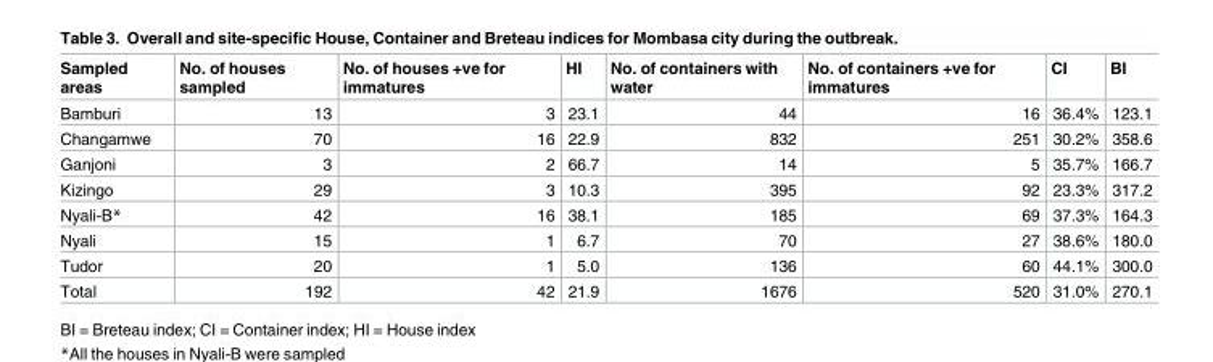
<table><thead><tr><td>Sampled areas</td><td>No. of houses sampled</td><td>No. of houses +ve for immatures</td><td>HI</td><td>No. of containers with water</td><td>No. of containers +ve for immatures</td><td>CI</td><td>BI</td></tr></thead><tbody><tr><td>Bamburi</td><td>13</td><td>3</td><td>23.1</td><td>44</td><td>16</td><td>36.4%</td><td>123.1</td></tr><tr><td>Changamwe</td><td>70</td><td>16</td><td>22.9</td><td>832</td><td>251</td><td>30.2%</td><td>358.6</td></tr><tr><td>Ganjoni</td><td>3</td><td>2</td><td>66.7</td><td>14</td><td>5</td><td>35.7%</td><td>166.7</td></tr><tr><td>Kizingo</td><td>29</td><td>3</td><td>10.3</td><td>395</td><td>92</td><td>23.3%</td><td>317.2</td></tr><tr><td>Nyali-B*</td><td>42</td><td>16</td><td>38.1</td><td>185</td><td>69</td><td>37.3%</td><td>164.3</td></tr><tr><td>Nyali</td><td>15</td><td>1</td><td>6.7</td><td>70</td><td>27</td><td>38.6%</td><td>180.0</td></tr><tr><td>Tudor</td><td>20</td><td>1</td><td>5.0</td><td>136</td><td>60</td><td>44.1%</td><td>300.0</td></tr><tr><td>Total</td><td>192</td><td>42</td><td>21.9</td><td>1676</td><td>520</td><td>31.0%</td><td>270.1</td></tr></tbody></table>